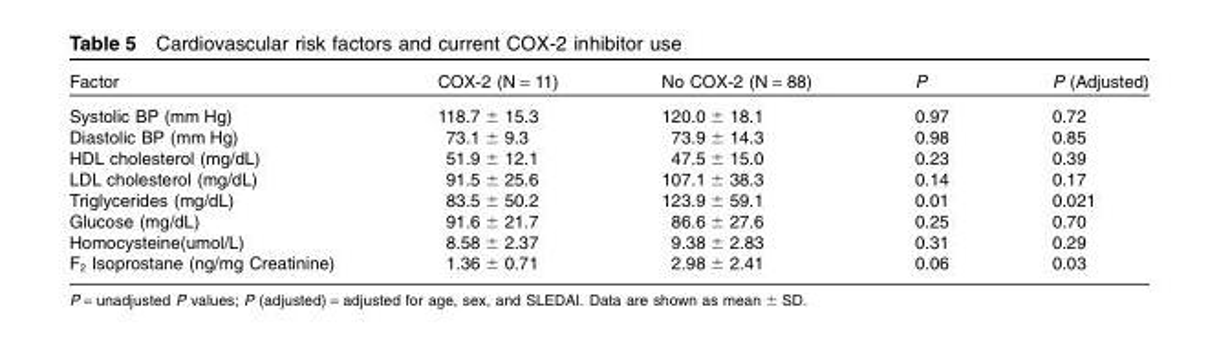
<table><thead><tr><td>Factor</td><td>COX-2 (N = 11)</td><td>No COX-2 (N = 88)</td><td>P</td><td>P (Adjusted)</td></tr></thead><tbody><tr><td>Systolic BP (mm Hg)</td><td>118.7 ± 15.3</td><td>120.0 ± 18.1</td><td>0.97</td><td>0.72</td></tr><tr><td>Diastolic BP (mm Hg)</td><td>73.1 ± 9.3</td><td>73.9 ± 14.3</td><td>0.98</td><td>0.85</td></tr><tr><td>HDL cholesterol (mg/dL)</td><td>51.9 ± 12.1</td><td>47.5 ± 15.0</td><td>0.23</td><td>0.39</td></tr><tr><td>LDL cholesterol (mg/dL)</td><td>91.5 ± 25.6</td><td>107.1 ± 38.3</td><td>0.14</td><td>0.17</td></tr><tr><td>Triglycerides (mg/dL)</td><td>83.5 ± 50.2</td><td>123.9 ± 59.1</td><td>0.01</td><td>0.021</td></tr><tr><td>Glucose (mg/dL)</td><td>91.6 ± 21.7</td><td>86.6 ± 27.6</td><td>0.25</td><td>0.70</td></tr><tr><td>Homocysteine(umol/L)</td><td>8.58 ± 2.37</td><td>9.38 ± 2.83</td><td>0.31</td><td>0.29</td></tr><tr><td>F<sub>2</sub> Isoprostane (ng/mg Creatinine)</td><td>1.36 ± 0.71</td><td>2.98 ± 2.41</td><td>0.06</td><td>0.03</td></tr></tbody></table>